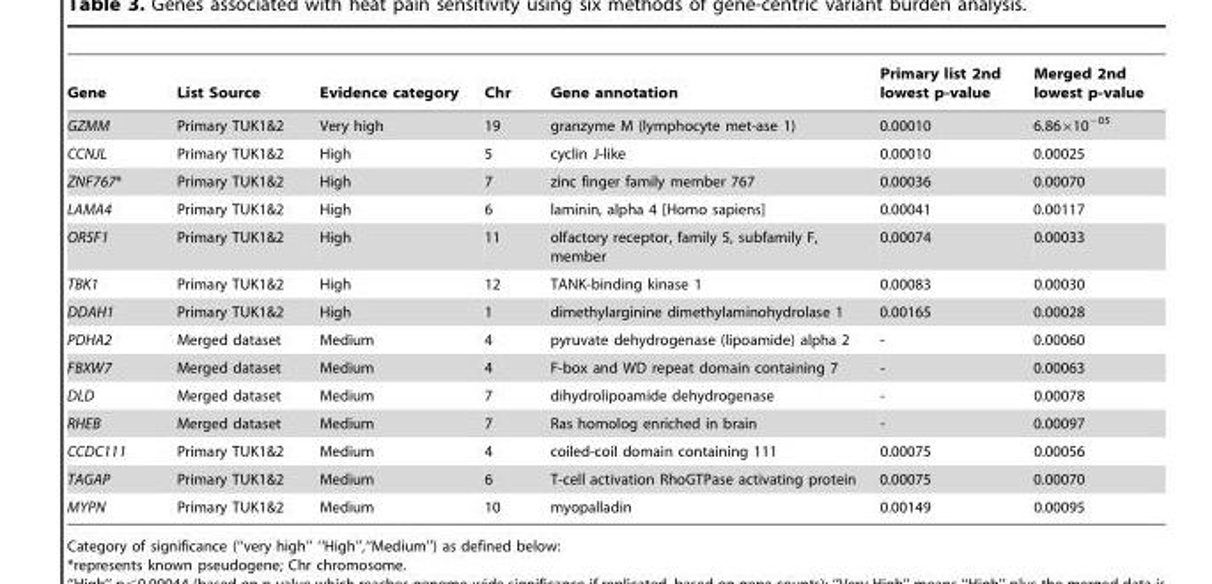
<table><thead><tr><td>Gene</td><td>List Source</td><td>Evidence category</td><td>Chr</td><td>Gene annotation</td><td>Primary list 2nd lowest p-value</td><td>Merged 2nd lowest p-value</td></tr></thead><tbody><tr><td>GZMM</td><td>Primary TUK1&amp;2</td><td>Very high</td><td>19</td><td>granzyme M (lymphocyte met-ase 1)</td><td>0.00010</td><td>6.86×10<sup>−05</sup></td></tr><tr><td>CCNJL</td><td>Primary TUK1&amp;2</td><td>High</td><td>5</td><td>cyclin J-like</td><td>0.00010</td><td>0.00025</td></tr><tr><td>ZNF767*</td><td>Primary TUK1&amp;2</td><td>High</td><td>7</td><td>zinc finger family member 767</td><td>0.00036</td><td>0.00070</td></tr><tr><td>LAMA4</td><td>Primary TUK1&amp;2</td><td>High</td><td>6</td><td>laminin, alpha 4 [Homo sapiens]</td><td>0.00041</td><td>0.00117</td></tr><tr><td>OR5F1</td><td>Primary TUK1&amp;2</td><td>High</td><td>11</td><td>olfactory receptor, family 5, subfamily F, member</td><td>0.00074</td><td>0.00033</td></tr><tr><td>TBK1</td><td>Primary TUK1&amp;2</td><td>High</td><td>12</td><td>TANK-binding kinase 1</td><td>0.00083</td><td>0.00030</td></tr><tr><td>DDAH1</td><td>Primary TUK1&amp;2</td><td>High</td><td>1</td><td>dimethylarginine dimethylaminohydrolase 1</td><td>0.00165</td><td>0.00028</td></tr><tr><td>PDHA2</td><td>Merged dataset</td><td>Medium</td><td>4</td><td>pyruvate dehydrogenase (lipoamide) alpha 2</td><td>-</td><td>0.00060</td></tr><tr><td>FBXW7</td><td>Merged dataset</td><td>Medium</td><td>4</td><td>F-box and WD repeat domain containing 7</td><td>-</td><td>0.00063</td></tr><tr><td>DLD</td><td>Merged dataset</td><td>Medium</td><td>7</td><td>dihydrolipoamide dehydrogenase</td><td>-</td><td>0.00078</td></tr><tr><td>RHEB</td><td>Merged dataset</td><td>Medium</td><td>7</td><td>Ras homolog enriched in brain</td><td>-</td><td>0.00097</td></tr><tr><td>CCDC111</td><td>Primary TUK1&amp;2</td><td>Medium</td><td>4</td><td>coiled-coil domain containing 111</td><td>0.00075</td><td>0.00056</td></tr><tr><td>TAGAP</td><td>Primary TUK1&amp;2</td><td>Medium</td><td>6</td><td>T-cell activation RhoGTPase activating protein</td><td>0.00075</td><td>0.00070</td></tr><tr><td>MYPN</td><td>Primary TUK1&amp;2</td><td>Medium</td><td>10</td><td>myopalladin</td><td>0.00149</td><td>0.00095</td></tr></tbody></table>